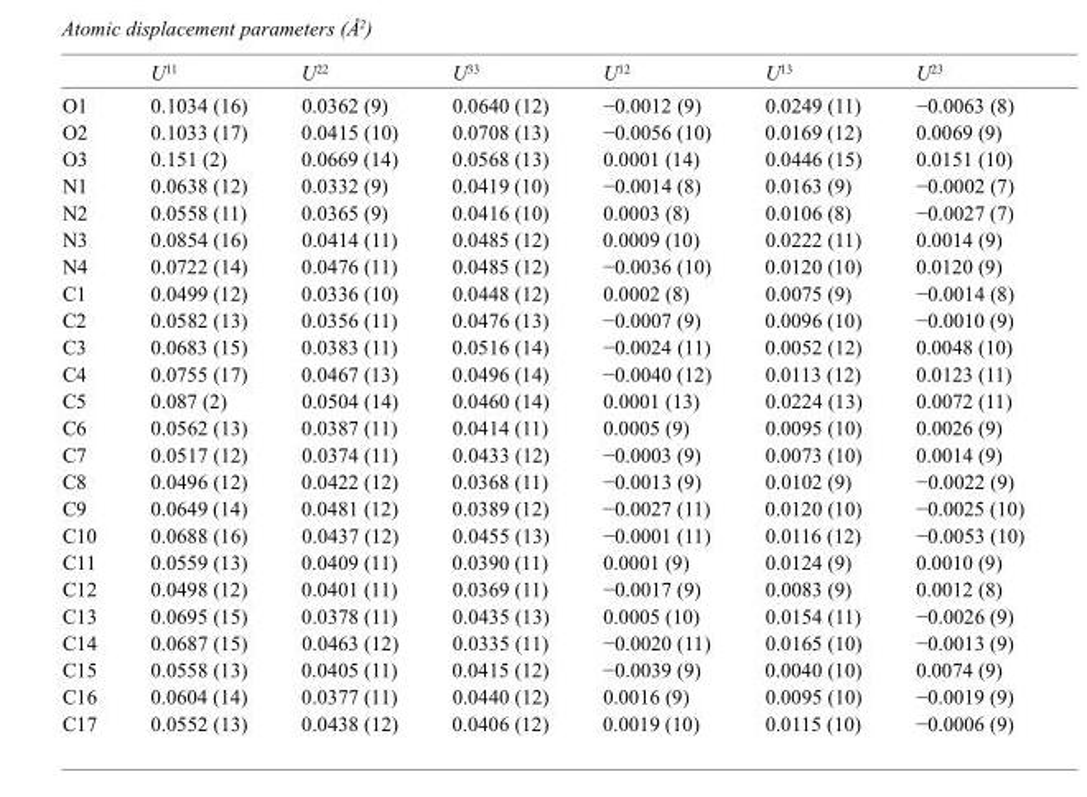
<table><thead><tr><td></td><td>U<sup>11</sup></td><td>U<sup>22</sup></td><td>U<sup>33</sup></td><td>U<sup>12</sup></td><td>U<sup>13</sup></td><td>U<sup>23</sup></td></tr></thead><tbody><tr><td>O1</td><td>0.1034 (16)</td><td>0.0362 (9)</td><td>0.0640 (12)</td><td>−0.0012 (9)</td><td>0.0249 (11)</td><td>−0.0063 (8)</td></tr><tr><td>O2</td><td>0.1033 (17)</td><td>0.0415 (10)</td><td>0.0708 (13)</td><td>−0.0056 (10)</td><td>0.0169 (12)</td><td>0.0069 (9)</td></tr><tr><td>O3</td><td>0.151 (2)</td><td>0.0669 (14)</td><td>0.0568 (13)</td><td>0.0001 (14)</td><td>0.0446 (15)</td><td>0.0151 (10)</td></tr><tr><td>N1</td><td>0.0638 (12)</td><td>0.0332 (9)</td><td>0.0419 (10)</td><td>−0.0014 (8)</td><td>0.0163 (9)</td><td>−0.0002 (7)</td></tr><tr><td>N2</td><td>0.0558 (11)</td><td>0.0365 (9)</td><td>0.0416 (10)</td><td>0.0003 (8)</td><td>0.0106 (8)</td><td>−0.0027 (7)</td></tr><tr><td>N3</td><td>0.0854 (16)</td><td>0.0414 (11)</td><td>0.0485 (12)</td><td>0.0009 (10)</td><td>0.0222 (11)</td><td>0.0014 (9)</td></tr><tr><td>N4</td><td>0.0722 (14)</td><td>0.0476 (11)</td><td>0.0485 (12)</td><td>−0.0036 (10)</td><td>0.0120 (10)</td><td>0.0120 (9)</td></tr><tr><td>C1</td><td>0.0499 (12)</td><td>0.0336 (10)</td><td>0.0448 (12)</td><td>0.0002 (8)</td><td>0.0075 (9)</td><td>−0.0014 (8)</td></tr><tr><td>C2</td><td>0.0582 (13)</td><td>0.0356 (11)</td><td>0.0476 (13)</td><td>−0.0007 (9)</td><td>0.0096 (10)</td><td>−0.0010 (9)</td></tr><tr><td>C3</td><td>0.0683 (15)</td><td>0.0383 (11)</td><td>0.0516 (14)</td><td>−0.0024 (11)</td><td>0.0052 (12)</td><td>0.0048 (10)</td></tr><tr><td>C4</td><td>0.0755 (17)</td><td>0.0467 (13)</td><td>0.0496 (14)</td><td>−0.0040 (12)</td><td>0.0113 (12)</td><td>0.0123 (11)</td></tr><tr><td>C5</td><td>0.087 (2)</td><td>0.0504 (14)</td><td>0.0460 (14)</td><td>0.0001 (13)</td><td>0.0224 (13)</td><td>0.0072 (11)</td></tr><tr><td>C6</td><td>0.0562 (13)</td><td>0.0387 (11)</td><td>0.0414 (11)</td><td>0.0005 (9)</td><td>0.0095 (10)</td><td>0.0026 (9)</td></tr><tr><td>C7</td><td>0.0517 (12)</td><td>0.0374 (11)</td><td>0.0433 (12)</td><td>−0.0003 (9)</td><td>0.0073 (10)</td><td>0.0014 (9)</td></tr><tr><td>C8</td><td>0.0496 (12)</td><td>0.0422 (12)</td><td>0.0368 (11)</td><td>−0.0013 (9)</td><td>0.0102 (9)</td><td>−0.0022 (9)</td></tr><tr><td>C9</td><td>0.0649 (14)</td><td>0.0481 (12)</td><td>0.0389 (12)</td><td>−0.0027 (11)</td><td>0.0120 (10)</td><td>−0.0025 (10)</td></tr><tr><td>C10</td><td>0.0688 (16)</td><td>0.0437 (12)</td><td>0.0455 (13)</td><td>−0.0001 (11)</td><td>0.0116 (12)</td><td>−0.0053 (10)</td></tr><tr><td>C11</td><td>0.0559 (13)</td><td>0.0409 (11)</td><td>0.0390 (11)</td><td>0.0001 (9)</td><td>0.0124 (9)</td><td>0.0010 (9)</td></tr><tr><td>C12</td><td>0.0498 (12)</td><td>0.0401 (11)</td><td>0.0369 (11)</td><td>−0.0017 (9)</td><td>0.0083 (9)</td><td>0.0012 (8)</td></tr><tr><td>C13</td><td>0.0695 (15)</td><td>0.0378 (11)</td><td>0.0435 (13)</td><td>0.0005 (10)</td><td>0.0154 (11)</td><td>−0.0026 (9)</td></tr><tr><td>C14</td><td>0.0687 (15)</td><td>0.0463 (12)</td><td>0.0335 (11)</td><td>−0.0020 (11)</td><td>0.0165 (10)</td><td>−0.0013 (9)</td></tr><tr><td>C15</td><td>0.0558 (13)</td><td>0.0405 (11)</td><td>0.0415 (12)</td><td>−0.0039 (9)</td><td>0.0040 (10)</td><td>0.0074 (9)</td></tr><tr><td>C16</td><td>0.0604 (14)</td><td>0.0377 (11)</td><td>0.0440 (12)</td><td>0.0016 (9)</td><td>0.0095 (10)</td><td>−0.0019 (9)</td></tr><tr><td>C17</td><td>0.0552 (13)</td><td>0.0438 (12)</td><td>0.0406 (12)</td><td>0.0019 (10)</td><td>0.0115 (10)</td><td>−0.0006 (9)</td></tr></tbody></table>